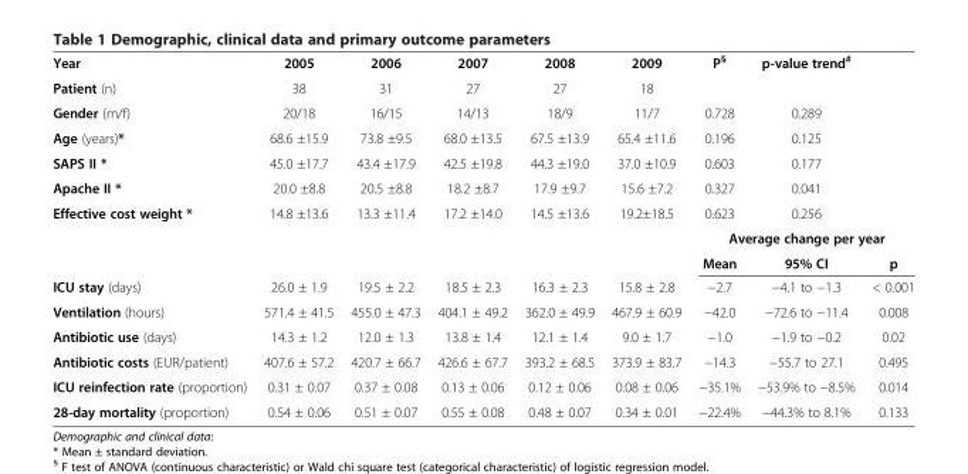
<table><tbody><tr><td>Year</td><td>2005</td><td>2006</td><td>2007</td><td>2008</td><td>2009</td><td>P<sup>§</sup></td><td>p-value trend<sup>#</sup></td><td></td></tr><tr><td>Patient (n)</td><td>38</td><td>31</td><td>27</td><td>27</td><td>18</td><td></td><td></td><td></td></tr><tr><td>Gender (m/f)</td><td>20/18</td><td>16/15</td><td>14/13</td><td>18/9</td><td>11/7</td><td>0.728</td><td>0.289</td><td></td></tr><tr><td>Age (years)*</td><td>68.6 ±15.9</td><td>73.8 ±9.5</td><td>68.0 ±13.5</td><td>67.5 ±13.9</td><td>65.4 ±11.6</td><td>0.196</td><td>0.125</td><td></td></tr><tr><td>SAPS II *</td><td>45.0 ±17.7</td><td>43.4 ±17.9</td><td>42.5 ±19.8</td><td>44.3 ±19.0</td><td>37.0 ±10.9</td><td>0.603</td><td>0.177</td><td></td></tr><tr><td>Apache II *</td><td>20.0 ±8.8</td><td>20.5 ±8.8</td><td>18.2 ±8.7</td><td>17.9 ±9.7</td><td>15.6 ±7.2</td><td>0.327</td><td>0.041</td><td></td></tr><tr><td>Effective cost weight *</td><td>14.8 ±13.6</td><td>13.3 ±11.4</td><td>17.2 ±14.0</td><td>14.5 ±13.6</td><td>19.2±18.5</td><td>0.623</td><td>0.256</td><td></td></tr><tr><td rowspan="2" colspan="6"></td><td colspan="3">Average change per year</td></tr><tr><td>Mean</td><td>95% CI</td><td>p</td></tr><tr><td>ICU stay (days)</td><td>26.0 ± 1.9</td><td>19.5 ± 2.2</td><td>18.5 ± 2.3</td><td>16.3 ± 2.3</td><td>15.8 ± 2.8</td><td>−2.7</td><td>−4.1 to −1.3</td><td>&lt; 0.001</td></tr><tr><td>Ventilation (hours)</td><td>571.4 ± 41.5</td><td>455.0 ± 47.3</td><td>404.1 ± 49.2</td><td>362.0 ± 49.9</td><td>467.9 ± 60.9</td><td>−42.0</td><td>−72.6 to −11.4</td><td>0.008</td></tr><tr><td>Antibiotic use (days)</td><td>14.3 ± 1.2</td><td>12.0 ± 1.3</td><td>13.8 ± 1.4</td><td>12.1 ± 1.4</td><td>9.0 ± 1.7</td><td>−1.0</td><td>−1.9 to −0.2</td><td>0.02</td></tr><tr><td>Antibiotic costs (EUR/patient)</td><td>407.6 ± 57.2</td><td>420.7 ± 66.7</td><td>426.6 ± 67.7</td><td>393.2 ± 68.5</td><td>373.9 ± 83.7</td><td>−14.3</td><td>−55.7 to 27.1</td><td>0.495</td></tr><tr><td>ICU reinfection rate (proportion)</td><td>0.31 ± 0.07</td><td>0.37 ± 0.08</td><td>0.13 ± 0.06</td><td>0.12 ± 0.06</td><td>0.08 ± 0.06</td><td>−35.1%</td><td>−53.9% to −8.5%</td><td>0.014</td></tr><tr><td>28-day mortality (proportion)</td><td>0.54 ± 0.06</td><td>0.51 ± 0.07</td><td>0.55 ± 0.08</td><td>0.48 ± 0.07</td><td>0.34 ± 0.01</td><td>−22.4%</td><td>−44.3% to 8.1%</td><td>0.133</td></tr></tbody></table>